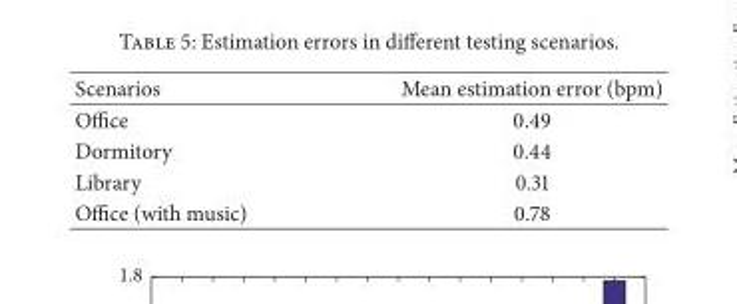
<table><thead><tr><td>Scenarios</td><td>Mean estimation error (bpm)</td></tr></thead><tbody><tr><td>Office</td><td>0.49</td></tr><tr><td>Dormitory</td><td>0.44</td></tr><tr><td>Library</td><td>0.31</td></tr><tr><td>Office (with music)</td><td>0.78</td></tr></tbody></table>